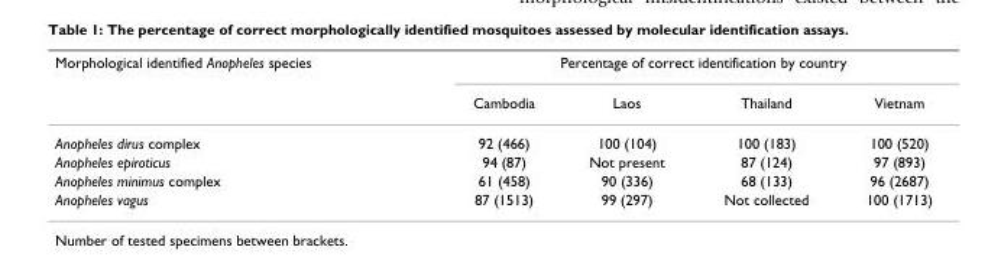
<table><thead><tr><td rowspan="2">Morphological identified Anopheles species</td><td colspan="4">Percentage of correct identification by country</td></tr><tr><td>Cambodia</td><td>Laos</td><td>Thailand</td><td>Vietnam</td></tr></thead><tbody><tr><td>Anopheles dirus complex</td><td>92 (466)</td><td>100 (104)</td><td>100 (183)</td><td>100 (520)</td></tr><tr><td>Anopheles epiroticus</td><td>94 (87)</td><td>Not present</td><td>87 (124)</td><td>97 (893)</td></tr><tr><td>Anopheles minimus complex</td><td>61 (458)</td><td>90 (336)</td><td>68 (133)</td><td>96 (2687)</td></tr><tr><td>Anopheles vagus</td><td>87 (1513)</td><td>99 (297)</td><td>Not collected</td><td>100 (1713)</td></tr></tbody></table>